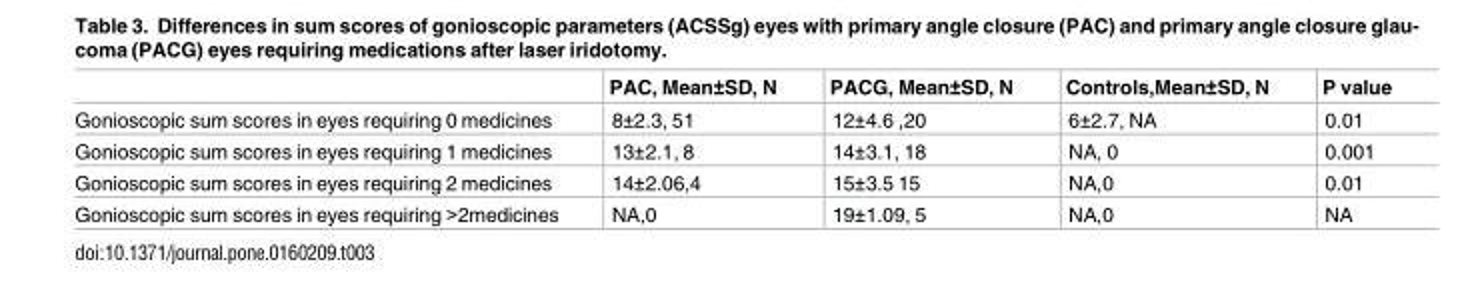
<table><thead><tr><td></td><td>PAC, Mean±SD, N</td><td>PACG, Mean±SD, N</td><td>Controls,Mean±SD, N</td><td>P value</td></tr></thead><tbody><tr><td>Gonioscopic sum scores in eyes requiring 0 medicines</td><td>8±2.3, 51</td><td>12±4.6 ,20</td><td>6±2.7, NA</td><td>0.01</td></tr><tr><td>Gonioscopic sum scores in eyes requiring 1 medicines</td><td>13±2.1, 8</td><td>14±3.1, 18</td><td>NA, 0</td><td>0.001</td></tr><tr><td>Gonioscopic sum scores in eyes requiring 2 medicines</td><td>14±2.06,4</td><td>15±3.5 15</td><td>NA,0</td><td>0.01</td></tr><tr><td>Gonioscopic sum scores in eyes requiring &gt;2medicines</td><td>NA,0</td><td>19±1.09, 5</td><td>NA,0</td><td>NA</td></tr></tbody></table>